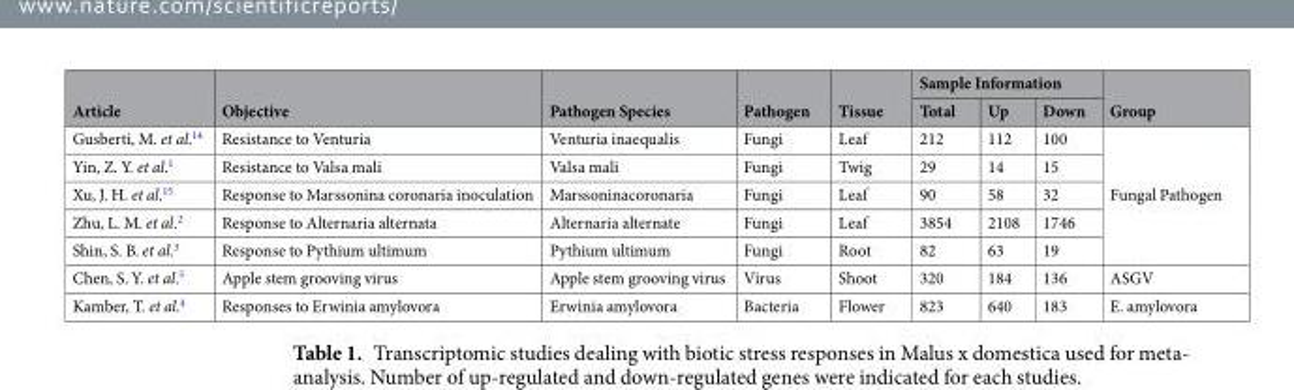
<table><thead><tr><td rowspan="2">Article</td><td rowspan="2">Objective</td><td rowspan="2">Pathogen Species</td><td rowspan="2">Pathogen</td><td rowspan="2">Tissue</td><td colspan="3">Sample Information</td><td rowspan="2">Group</td></tr><tr><td>Total</td><td>Up</td><td>Down</td></tr></thead><tbody><tr><td>Gusberti, M. et al.<sup>14</sup></td><td>Resistance to Venturia</td><td>Venturia inaequalis</td><td>Fungi</td><td>Leaf</td><td>212</td><td>112</td><td>100</td><td rowspan="5">Fungal Pathogen</td></tr><tr><td>Yin, Z. Y. et al.<sup>1</sup></td><td>Resistance to Valsa mali</td><td>Valsa mali</td><td>Fungi</td><td>Twig</td><td>29</td><td>14</td><td>15</td></tr><tr><td>Xu, J. H. et al.<sup>15</sup></td><td>Response to Marssonina coronaria inoculation</td><td>Marssoninacoronaria</td><td>Fungi</td><td>Leaf</td><td>90</td><td>58</td><td>32</td></tr><tr><td>Zhu, L. M. et al.<sup>2</sup></td><td>Response to Alternaria alternata</td><td>Alternaria alternate</td><td>Fungi</td><td>Leaf</td><td>3854</td><td>2108</td><td>1746</td></tr><tr><td>Shin, S. B. et al.<sup>3</sup></td><td>Response to Pythium ultimum</td><td>Pythium ultimum</td><td>Fungi</td><td>Root</td><td>82</td><td>63</td><td>19</td></tr><tr><td>Chen, S. Y. et al.<sup>5</sup></td><td>Apple stem grooving virus</td><td>Apple stem grooving virus</td><td>Virus</td><td>Shoot</td><td>320</td><td>184</td><td>136</td><td>ASGV</td></tr><tr><td>Kamber, T. et al.<sup>4</sup></td><td>Responses to Erwinia amylovora</td><td>Erwinia amylovora</td><td>Bacteria</td><td>Flower</td><td>823</td><td>640</td><td>183</td><td>E. amylovora</td></tr></tbody></table>